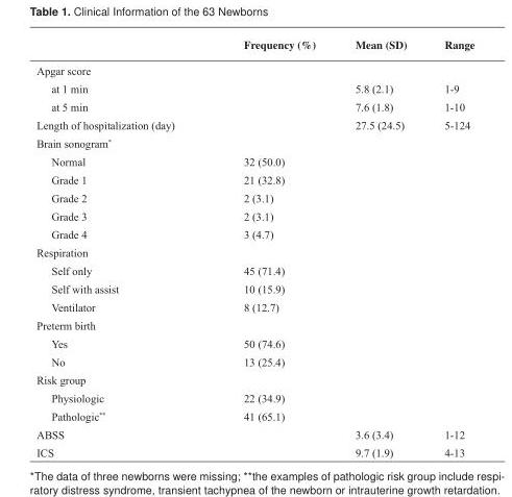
<table><thead><tr><td></td><td>Frequency (%)</td><td>Mean (SD)</td><td>Range</td></tr></thead><tbody><tr><td colspan="4">Apgar score</td></tr><tr><td>at 1 min</td><td></td><td>5.8 (2.1)</td><td>1-9</td></tr><tr><td>at 5 min</td><td></td><td>7.6 (1.8)</td><td>1-10</td></tr><tr><td>Length of hospitalization (day)</td><td></td><td>27.5 (24.5)</td><td>5-124</td></tr><tr><td colspan="4">Brain sonogram*</td></tr><tr><td>Normal</td><td>32 (50.0)</td><td></td><td></td></tr><tr><td>Grade 1</td><td>21 (32.8)</td><td></td><td></td></tr><tr><td>Grade 2</td><td>2 (3.1)</td><td></td><td></td></tr><tr><td>Grade 3</td><td>2 (3.1)</td><td></td><td></td></tr><tr><td>Grade 4</td><td>3 (4.7)</td><td></td><td></td></tr><tr><td colspan="4">Respiration</td></tr><tr><td>Self only</td><td>45 (71.4)</td><td></td><td></td></tr><tr><td>Self with assist</td><td>10 (15.9)</td><td></td><td></td></tr><tr><td>Ventilator</td><td>8 (12.7)</td><td></td><td></td></tr><tr><td colspan="4">Preterm birth</td></tr><tr><td>Yes</td><td>50 (74.6)</td><td></td><td></td></tr><tr><td>No</td><td>13 (25.4)</td><td></td><td></td></tr><tr><td colspan="4">Risk group</td></tr><tr><td>Physiologic</td><td>22 (34.9)</td><td></td><td></td></tr><tr><td>Pathologic**</td><td>41 (65.1)</td><td></td><td></td></tr><tr><td>ABSS</td><td></td><td>3.6 (3.4)</td><td>1-12</td></tr><tr><td>ICS</td><td></td><td>9.7 (1.9)</td><td>4-13</td></tr></tbody></table>